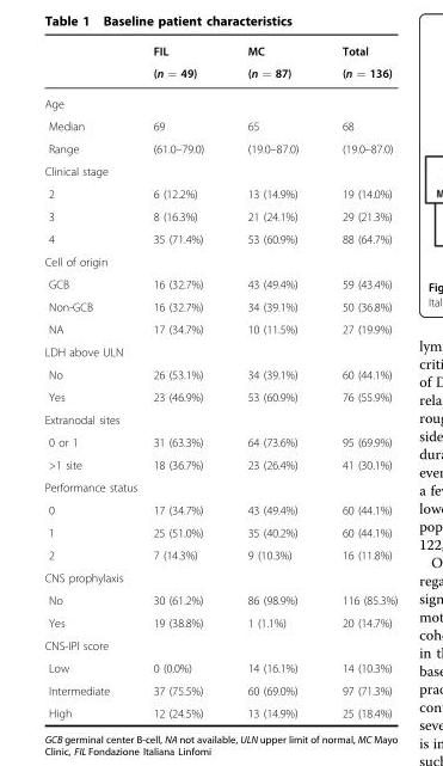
<table><thead><tr><td rowspan="2"></td><td rowspan="2">FIL (n = 49)</td><td rowspan="2">MC (n = 87)</td><td rowspan="2">Total (n = 136)</td></tr><tr></tr></thead><tbody><tr><td colspan="4">Age</td></tr><tr><td>Median</td><td>69</td><td>65</td><td>68</td></tr><tr><td>Range</td><td>(61.0–79.0)</td><td>(19.0–87.0)</td><td>(19.0–87.0)</td></tr><tr><td colspan="4">Clinical stage</td></tr><tr><td>2</td><td>6 (12.2%)</td><td>13 (14.9%)</td><td>19 (14.0%)</td></tr><tr><td>3</td><td>8 (16.3%)</td><td>21 (24.1%)</td><td>29 (21.3%)</td></tr><tr><td>4</td><td>35 (71.4%)</td><td>53 (60.9%)</td><td>88 (64.7%)</td></tr><tr><td colspan="4">Cell of origin</td></tr><tr><td>GCB</td><td>16 (32.7%)</td><td>43 (49.4%)</td><td>59 (43.4%)</td></tr><tr><td>Non-GCB</td><td>16 (32.7%)</td><td>34 (39.1%)</td><td>50 (36.8%)</td></tr><tr><td>NA</td><td>17 (34.7%)</td><td>10 (11.5%)</td><td>27 (19.9%)</td></tr><tr><td colspan="4">LDH above ULN</td></tr><tr><td>No</td><td>26 (53.1%)</td><td>34 (39.1%)</td><td>60 (44.1%)</td></tr><tr><td>Yes</td><td>23 (46.9%)</td><td>53 (60.9%)</td><td>76 (55.9%)</td></tr><tr><td colspan="4">Extranodal sites</td></tr><tr><td>0 or 1</td><td>31 (63.3%)</td><td>64 (73.6%)</td><td>95 (69.9%)</td></tr><tr><td>&gt;1 site</td><td>18 (36.7%)</td><td>23 (26.4%)</td><td>41 (30.1%)</td></tr><tr><td colspan="4">Performance status</td></tr><tr><td>0</td><td>17 (34.7%)</td><td>43 (49.4%)</td><td>60 (44.1%)</td></tr><tr><td>1</td><td>25 (51.0%)</td><td>35 (40.2%)</td><td>60 (44.1%)</td></tr><tr><td>2</td><td>7 (14.3%)</td><td>9 (10.3%)</td><td>16 (11.8%)</td></tr><tr><td colspan="4">CNS prophylaxis</td></tr><tr><td>No</td><td>30 (61.2%)</td><td>86 (98.9%)</td><td>116 (85.3%)</td></tr><tr><td>Yes</td><td>19 (38.8%)</td><td>1 (1.1%)</td><td>20 (14.7%)</td></tr><tr><td colspan="4">CNS-IPI score</td></tr><tr><td>Low</td><td>0 (0.0%)</td><td>14 (16.1%)</td><td>14 (10.3%)</td></tr><tr><td>Intermediate</td><td>37 (75.5%)</td><td>60 (69.0%)</td><td>97 (71.3%)</td></tr><tr><td>High</td><td>12 (24.5%)</td><td>13 (14.9%)</td><td>25 (18.4%)</td></tr></tbody></table>